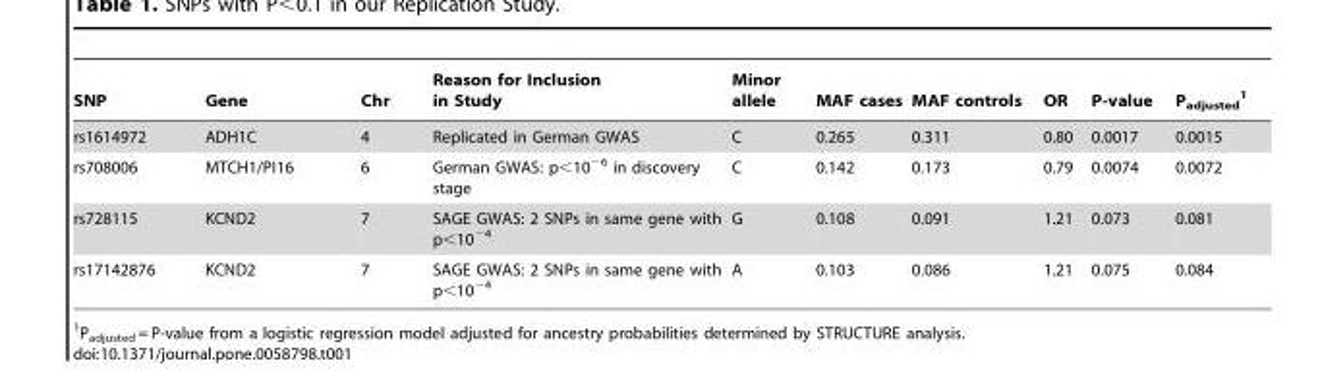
<table><thead><tr><td>SNP</td><td>Gene</td><td>Chr</td><td>Reason for Inclusion in Study</td><td>Minor allele</td><td>MAF cases</td><td>MAF controls</td><td>OR</td><td>P-value</td><td>P<sub>adjusted</sub> 1</td></tr></thead><tbody><tr><td>rs1614972</td><td>ADH1C</td><td>4</td><td>Replicated in German GWAS</td><td>C</td><td>0.265</td><td>0.311</td><td>0.80</td><td>0.0017</td><td>0.0015</td></tr><tr><td>rs708006</td><td>MTCH1/PI16</td><td>6</td><td>German GWAS: p&lt;10<sup>−6</sup> in discovery stage</td><td>C</td><td>0.142</td><td>0.173</td><td>0.79</td><td>0.0074</td><td>0.0072</td></tr><tr><td>rs728115</td><td>KCND2</td><td>7</td><td>SAGE GWAS: 2 SNPs in same gene with p&lt;10<sup>−4</sup></td><td>G</td><td>0.108</td><td>0.091</td><td>1.21</td><td>0.073</td><td>0.081</td></tr><tr><td>rs17142876</td><td>KCND2</td><td>7</td><td>SAGE GWAS: 2 SNPs in same gene with p&lt;10<sup>−4</sup></td><td>A</td><td>0.103</td><td>0.086</td><td>1.21</td><td>0.075</td><td>0.084</td></tr></tbody></table>